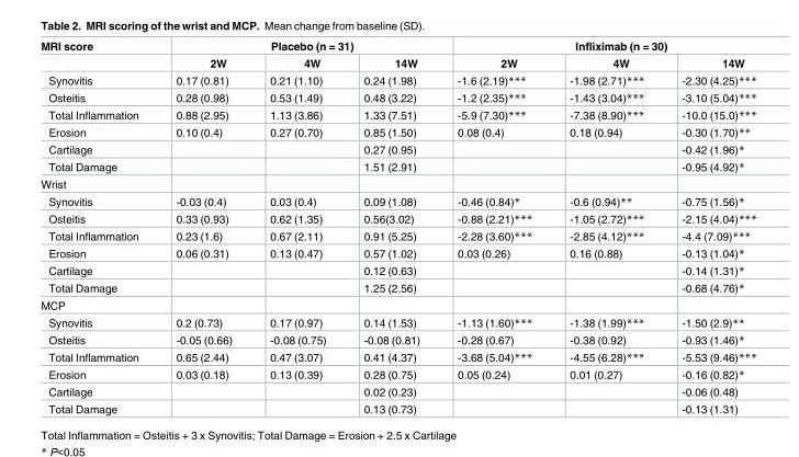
<table><thead><tr><td rowspan="2">MRI score</td><td colspan="3">Placebo (n = 31)</td><td colspan="3">Infliximab (n = 30)</td></tr><tr><td>2W</td><td>4W</td><td>14W</td><td>2W</td><td>4W</td><td>14W</td></tr></thead><tbody><tr><td>Synovitis</td><td>0.17 (0.81)</td><td>0.21 (1.10)</td><td>0.24 (1.98)</td><td>-1.6 (2.19)***</td><td>-1.98 (2.71)***</td><td>-2.30 (4.25)***</td></tr><tr><td>Osteitis</td><td>0.28 (0.98)</td><td>0.53 (1.49)</td><td>0.48 (3.22)</td><td>-1.2 (2.35)***</td><td>-1.43 (3.04)***</td><td>-3.10 (5.04)***</td></tr><tr><td>Total Inflammation</td><td>0.88 (2.95)</td><td>1.13 (3.86)</td><td>1.33 (7.51)</td><td>-5.9 (7.30)***</td><td>-7.38 (8.90)***</td><td>-10.0 (15.0)***</td></tr><tr><td>Erosion</td><td>0.10 (0.4)</td><td>0.27 (0.70)</td><td>0.85 (1.50)</td><td>0.08 (0.4)</td><td>0.18 (0.94)</td><td>-0.30 (1.70)**</td></tr><tr><td>Cartilage</td><td></td><td></td><td>0.27 (0.95)</td><td></td><td></td><td>-0.42 (1.96)*</td></tr><tr><td>Total Damage</td><td></td><td></td><td>1.51 (2.91)</td><td></td><td></td><td>-0.95 (4.92)*</td></tr><tr><td colspan="7">Wrist</td></tr><tr><td>Synovitis</td><td>-0.03 (0.4)</td><td>0.03 (0.4)</td><td>0.09 (1.08)</td><td>-0.46 (0.84)*</td><td>-0.6 (0.94)**</td><td>-0.75 (1.56)*</td></tr><tr><td>Osteitis</td><td>0.33 (0.93)</td><td>0.62 (1.35)</td><td>0.56(3.02)</td><td>-0.88 (2.21)***</td><td>-1.05 (2.72)***</td><td>-2.15 (4.04)***</td></tr><tr><td>Total Inflammation</td><td>0.23 (1.6)</td><td>0.67 (2.11)</td><td>0.91 (5.25)</td><td>-2.28 (3.60)***</td><td>-2.85 (4.12)***</td><td>-4.4 (7.09)***</td></tr><tr><td>Erosion</td><td>0.06 (0.31)</td><td>0.13 (0.47)</td><td>0.57 (1.02)</td><td>0.03 (0.26)</td><td>0.16 (0.88)</td><td>-0.13 (1.04)*</td></tr><tr><td>Cartilage</td><td></td><td></td><td>0.12 (0.63)</td><td></td><td></td><td>-0.14 (1.31)*</td></tr><tr><td>Total Damage</td><td></td><td></td><td>1.25 (2.56)</td><td></td><td></td><td>-0.68 (4.76)*</td></tr><tr><td colspan="7">MCP</td></tr><tr><td>Synovitis</td><td>0.2 (0.73)</td><td>0.17 (0.97)</td><td>0.14 (1.53)</td><td>-1.13 (1.60)***</td><td>-1.38 (1.99)***</td><td>-1.50 (2.9)**</td></tr><tr><td>Osteitis</td><td>-0.05 (0.66)</td><td>-0.08 (0.75)</td><td>-0.08 (0.81)</td><td>-0.28 (0.67)</td><td>-0.38 (0.92)</td><td>-0.93 (1.46)*</td></tr><tr><td>Total Inflammation</td><td>0.65 (2.44)</td><td>0.47 (3.07)</td><td>0.41 (4.37)</td><td>-3.68 (5.04)***</td><td>-4.55 (6.28)***</td><td>-5.53 (9.46)***</td></tr><tr><td>Erosion</td><td>0.03 (0.18)</td><td>0.13 (0.39)</td><td>0.28 (0.75)</td><td>0.05 (0.24)</td><td>0.01 (0.27)</td><td>-0.16 (0.82)*</td></tr><tr><td>Cartilage</td><td></td><td></td><td>0.02 (0.23)</td><td></td><td></td><td>-0.06 (0.48)</td></tr><tr><td>Total Damage</td><td></td><td></td><td>0.13 (0.73)</td><td></td><td></td><td>-0.13 (1.31)</td></tr></tbody></table>